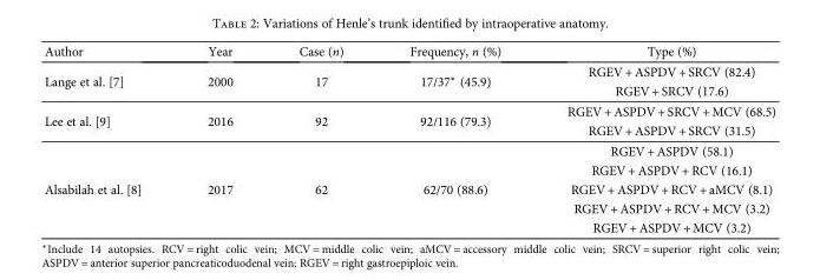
<table><thead><tr><td>Author</td><td>Year</td><td>Case (n)</td><td>Frequency, n (%)</td><td>Type (%)</td></tr></thead><tbody><tr><td rowspan="2">Lange et al. [7]</td><td rowspan="2">2000</td><td rowspan="2">17</td><td rowspan="2">17/37∗ (45.9)</td><td>RGEV + ASPDV + SRCV (82.4)</td></tr><tr><td>RGEV + SRCV (17.6)</td></tr><tr><td rowspan="2">Lee et al. [9]</td><td rowspan="2">2016</td><td rowspan="2">92</td><td rowspan="2">92/116 (79.3)</td><td>RGEV + ASPDV + SRCV + MCV (68.5)</td></tr><tr><td>RGEV + ASPDV + SRCV (31.5)</td></tr><tr><td rowspan="5">Alsabilah et al. [8]</td><td rowspan="5">2017</td><td rowspan="5">62</td><td rowspan="5">62/70 (88.6)</td><td>RGEV + ASPDV (58.1)</td></tr><tr><td>RGEV + ASPDV + RCV (16.1)</td></tr><tr><td>RGEV + ASPDV + RCV + aMCV (8.1)</td></tr><tr><td>RGEV + ASPDV + RCV + MCV (3.2)</td></tr><tr><td>RGEV + ASPDV + MCV (3.2)</td></tr></tbody></table>